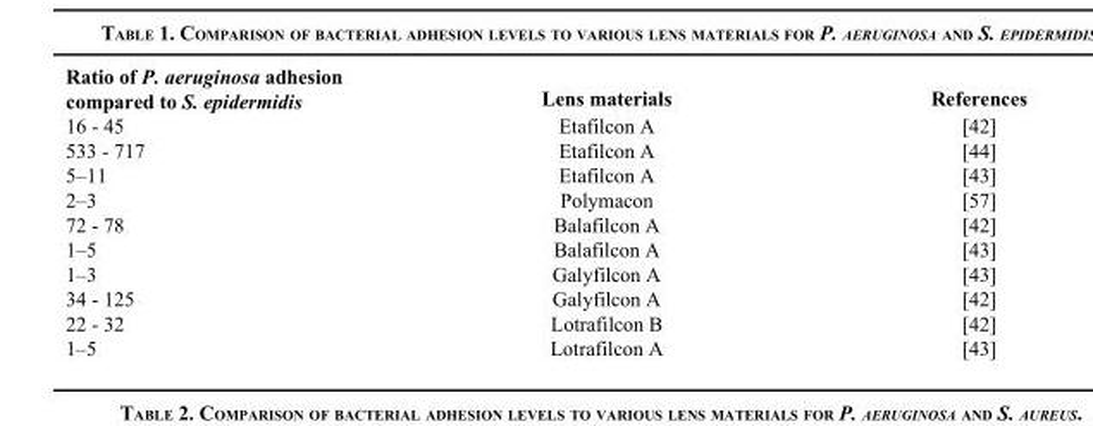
<table><thead><tr><td>Ratio of P. aeruginosa adhesion compared to S. epidermidis</td><td>Lens materials</td><td>References</td></tr></thead><tbody><tr><td>16 - 45</td><td>Etafilcon A</td><td>[42]</td></tr><tr><td>533 - 717</td><td>Etafilcon A</td><td>[44]</td></tr><tr><td>5–11</td><td>Etafilcon A</td><td>[43]</td></tr><tr><td>2–3</td><td>Polymacon</td><td>[57]</td></tr><tr><td>72 - 78</td><td>Balafilcon A</td><td>[42]</td></tr><tr><td>1–5</td><td>Balafilcon A</td><td>[43]</td></tr><tr><td>1–3</td><td>Galyfilcon A</td><td>[43]</td></tr><tr><td>34 - 125</td><td>Galyfilcon A</td><td>[42]</td></tr><tr><td>22 - 32</td><td>Lotrafilcon B</td><td>[42]</td></tr><tr><td>1–5</td><td>Lotrafilcon A</td><td>[43]</td></tr></tbody></table>